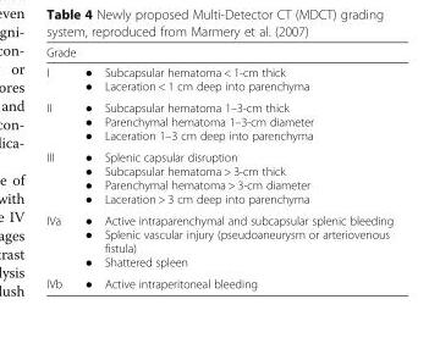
<table><thead><tr><td>Grade</td><td></td></tr></thead><tbody><tr><td>I</td><td>● Subcapsular hematoma &lt; 1-cm thick ● Laceration &lt; 1 cm deep into parenchyma</td></tr><tr><td>II</td><td>● Subcapsular hematoma 1–3-cm thick ● Parenchymal hematoma 1–3-cm diameter ● Laceration 1–3 cm deep into parenchyma</td></tr><tr><td>III</td><td>● Splenic capsular disruption ● Subcapsular hematoma &gt; 3-cm thick ● Parenchymal hematoma &gt; 3-cm diameter ● Laceration &gt; 3 cm deep into parenchyma</td></tr><tr><td>IVa</td><td>● Active intraparenchymal and subcapsular splenic bleeding ● Splenic vascular injury (pseudoaneurysm or arteriovenous fistula) ● Shattered spleen</td></tr><tr><td>IVb</td><td>● Active intraperitoneal bleeding</td></tr></tbody></table>